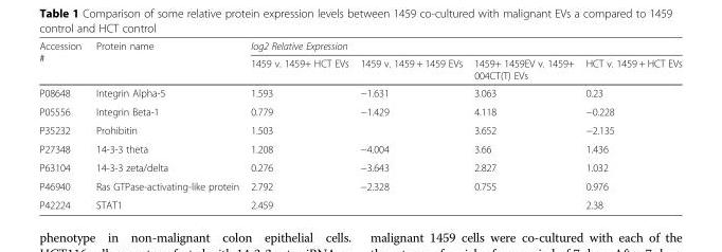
<table><thead><tr><td rowspan="2">Accession #</td><td rowspan="2">Protein name</td><td colspan="4">log2 Relative Expression</td></tr><tr><td>1459 v. 1459+ HCT EVs</td><td>1459 v. 1459 + 1459 EVs</td><td>1459+ 1459EV v. 1459+ 004CT(T) EVs</td><td>HCT v. 1459 + HCT EVs</td></tr></thead><tbody><tr><td>P08648</td><td>Integrin Alpha-5</td><td>1.593</td><td>−1.631</td><td>3.063</td><td>0.23</td></tr><tr><td>P05556</td><td>Integrin Beta-1</td><td>0.779</td><td>−1.429</td><td>4.118</td><td>−0.228</td></tr><tr><td>P35232</td><td>Prohibitin</td><td>1.503</td><td></td><td>3.652</td><td>−2.135</td></tr><tr><td>P27348</td><td>14-3-3 theta</td><td>1.208</td><td>−4.004</td><td>3.66</td><td>1.436</td></tr><tr><td>P63104</td><td>14-3-3 zeta/delta</td><td>0.276</td><td>−3.643</td><td>2.827</td><td>1.032</td></tr><tr><td>P46940</td><td>Ras GTPase-activating-like protein</td><td>2.792</td><td>−2.328</td><td>0.755</td><td>0.976</td></tr><tr><td>P42224</td><td>STAT1</td><td>2.459</td><td></td><td></td><td>2.38</td></tr></tbody></table>